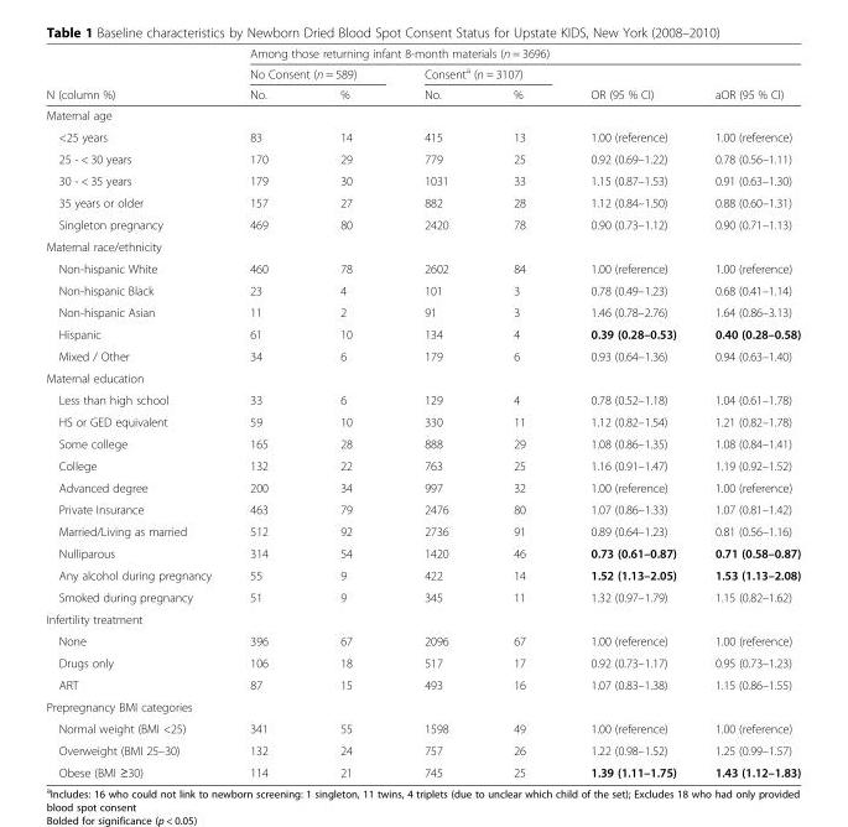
<table><thead><tr><td rowspan="3">N (column %)</td><td colspan="6">Among those returning infant 8-month materials (n = 3696)</td></tr><tr><td colspan="2">No Consent (n = 589)</td><td colspan="2">Consent<sup>a</sup> (n = 3107)</td><td rowspan="2">OR (95 % CI)</td><td rowspan="2">aOR (95 % CI)</td></tr><tr><td>No.</td><td>%</td><td>No.</td><td>%</td></tr></thead><tbody><tr><td colspan="7">Maternal age</td></tr><tr><td>&lt;25 years</td><td>83</td><td>14</td><td>415</td><td>13</td><td>1.00 (reference)</td><td>1.00 (reference)</td></tr><tr><td>25 - &lt; 30 years</td><td>170</td><td>29</td><td>779</td><td>25</td><td>0.92 (0.69–1.22)</td><td>0.78 (0.56–1.11)</td></tr><tr><td>30 - &lt; 35 years</td><td>179</td><td>30</td><td>1031</td><td>33</td><td>1.15 (0.87–1.53)</td><td>0.91 (0.63–1.30)</td></tr><tr><td>35 years or older</td><td>157</td><td>27</td><td>882</td><td>28</td><td>1.12 (0.84–1.50)</td><td>0.88 (0.60–1.31)</td></tr><tr><td>Singleton pregnancy</td><td>469</td><td>80</td><td>2420</td><td>78</td><td>0.90 (0.73–1.12)</td><td>0.90 (0.71–1.13)</td></tr><tr><td colspan="7">Maternal race/ethnicity</td></tr><tr><td>Non-hispanic White</td><td>460</td><td>78</td><td>2602</td><td>84</td><td>1.00 (reference)</td><td>1.00 (reference)</td></tr><tr><td>Non-hispanic Black</td><td>23</td><td>4</td><td>101</td><td>3</td><td>0.78 (0.49–1.23)</td><td>0.68 (0.41–1.14)</td></tr><tr><td>Non-hispanic Asian</td><td>11</td><td>2</td><td>91</td><td>3</td><td>1.46 (0.78–2.76)</td><td>1.64 (0.86–3.13)</td></tr><tr><td>Hispanic</td><td>61</td><td>10</td><td>134</td><td>4</td><td>0.39 (0.28–0.53)</td><td>0.40 (0.28–0.58)</td></tr><tr><td>Mixed / Other</td><td>34</td><td>6</td><td>179</td><td>6</td><td>0.93 (0.64–1.36)</td><td>0.94 (0.63–1.40)</td></tr><tr><td colspan="7">Maternal education</td></tr><tr><td>Less than high school</td><td>33</td><td>6</td><td>129</td><td>4</td><td>0.78 (0.52–1.18)</td><td>1.04 (0.61–1.78)</td></tr><tr><td>HS or GED equivalent</td><td>59</td><td>10</td><td>330</td><td>11</td><td>1.12 (0.82–1.54)</td><td>1.21 (0.82–1.78)</td></tr><tr><td>Some college</td><td>165</td><td>28</td><td>888</td><td>29</td><td>1.08 (0.86–1.35)</td><td>1.08 (0.84–1.41)</td></tr><tr><td>College</td><td>132</td><td>22</td><td>763</td><td>25</td><td>1.16 (0.91–1.47)</td><td>1.19 (0.92–1.52)</td></tr><tr><td>Advanced degree</td><td>200</td><td>34</td><td>997</td><td>32</td><td>1.00 (reference)</td><td>1.00 (reference)</td></tr><tr><td>Private Insurance</td><td>463</td><td>79</td><td>2476</td><td>80</td><td>1.07 (0.86–1.33)</td><td>1.07 (0.81–1.42)</td></tr><tr><td>Married/Living as married</td><td>512</td><td>92</td><td>2736</td><td>91</td><td>0.89 (0.64–1.23)</td><td>0.81 (0.56–1.16)</td></tr><tr><td>Nulliparous</td><td>314</td><td>54</td><td>1420</td><td>46</td><td>0.73 (0.61–0.87)</td><td>0.71 (0.58–0.87)</td></tr><tr><td>Any alcohol during pregnancy</td><td>55</td><td>9</td><td>422</td><td>14</td><td>1.52 (1.13–2.05)</td><td>1.53 (1.13–2.08)</td></tr><tr><td>Smoked during pregnancy</td><td>51</td><td>9</td><td>345</td><td>11</td><td>1.32 (0.97–1.79)</td><td>1.15 (0.82–1.62)</td></tr><tr><td colspan="7">Infertility treatment</td></tr><tr><td>None</td><td>396</td><td>67</td><td>2096</td><td>67</td><td>1.00 (reference)</td><td>1.00 (reference)</td></tr><tr><td>Drugs only</td><td>106</td><td>18</td><td>517</td><td>17</td><td>0.92 (0.73–1.17)</td><td>0.95 (0.73–1.23)</td></tr><tr><td>ART</td><td>87</td><td>15</td><td>493</td><td>16</td><td>1.07 (0.83–1.38)</td><td>1.15 (0.86–1.55)</td></tr><tr><td colspan="7">Prepregnancy BMI categories</td></tr><tr><td>Normal weight (BMI &lt;25)</td><td>341</td><td>55</td><td>1598</td><td>49</td><td>1.00 (reference)</td><td>1.00 (reference)</td></tr><tr><td>Overweight (BMI 25–30)</td><td>132</td><td>24</td><td>757</td><td>26</td><td>1.22 (0.98–1.52)</td><td>1.25 (0.99–1.57)</td></tr><tr><td>Obese (BMI ≥30)</td><td>114</td><td>21</td><td>745</td><td>25</td><td>1.39 (1.11–1.75)</td><td>1.43 (1.12–1.83)</td></tr></tbody></table>